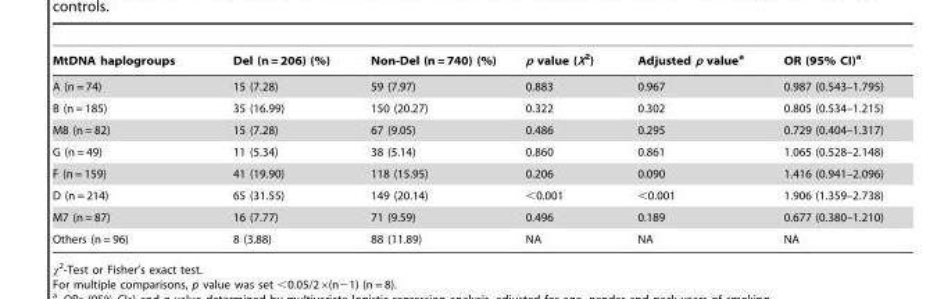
<table><thead><tr><td>MtDNA haplogroups</td><td>Del (n = 206) (%)</td><td>Non-Del (n = 740) (%)</td><td>p value (X<sup>2</sup>)</td><td>Adjusted p value<sup>a</sup></td><td>OR (95% CI)<sup>a</sup></td></tr></thead><tbody><tr><td>A (n = 74)</td><td>15 (7.28)</td><td>59 (7.97)</td><td>0.883</td><td>0.967</td><td>0.987 (0.543–1.795)</td></tr><tr><td>B (n = 185)</td><td>35 (16.99)</td><td>150 (20.27)</td><td>0.322</td><td>0.302</td><td>0.805 (0.534–1.215)</td></tr><tr><td>M8 (n = 82)</td><td>15 (7.28)</td><td>67 (9.05)</td><td>0.486</td><td>0.295</td><td>0.729 (0.404–1.317)</td></tr><tr><td>G (n = 49)</td><td>11 (5.34)</td><td>38 (5.14)</td><td>0.860</td><td>0.861</td><td>1.065 (0.528–2.148)</td></tr><tr><td>F (n = 159)</td><td>41 (19.90)</td><td>118 (15.95)</td><td>0.206</td><td>0.090</td><td>1.416 (0.941–2.096)</td></tr><tr><td>D (n = 214)</td><td>65 (31.55)</td><td>149 (20.14)</td><td>&lt;0.001</td><td>&lt;0.001</td><td>1.906 (1.359–2.738)</td></tr><tr><td>M7 (n = 87)</td><td>16 (7.77)</td><td>71 (9.59)</td><td>0.496</td><td>0.189</td><td>0.677 (0.380–1.210)</td></tr><tr><td>Others (n = 96)</td><td>8 (3.88)</td><td>88 (11.89)</td><td>NA</td><td>NA</td><td>NA</td></tr></tbody></table>